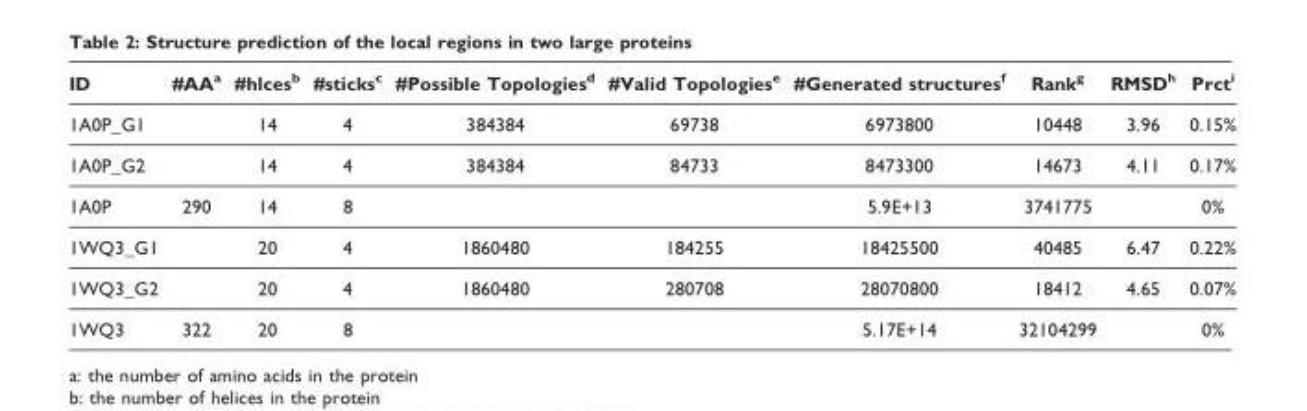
<table><thead><tr><td>ID</td><td>#AA<sup>a</sup></td><td>#hlces<sup>b</sup></td><td>#sticks<sup>c</sup></td><td>#Possible Topologies<sup>d</sup></td><td>#Valid Topologies<sup>e</sup></td><td>#Generated structures<sup>f</sup></td><td>Rank<sup>g</sup></td><td>RMSD<sup>h</sup></td><td>Prct<sup>i</sup></td></tr></thead><tbody><tr><td>1A0P_G1</td><td></td><td>14</td><td>4</td><td>384384</td><td>69738</td><td>6973800</td><td>10448</td><td>3.96</td><td>0.15%</td></tr><tr><td>1A0P_G2</td><td></td><td>14</td><td>4</td><td>384384</td><td>84733</td><td>8473300</td><td>14673</td><td>4.11</td><td>0.17%</td></tr><tr><td>1A0P</td><td>290</td><td>14</td><td>8</td><td></td><td></td><td>5.9E+13</td><td>3741775</td><td></td><td>0%</td></tr><tr><td>1WQ3_G1</td><td></td><td>20</td><td>4</td><td>1860480</td><td>184255</td><td>18425500</td><td>40485</td><td>6.47</td><td>0.22%</td></tr><tr><td>1WQ3_G2</td><td></td><td>20</td><td>4</td><td>1860480</td><td>280708</td><td>28070800</td><td>18412</td><td>4.65</td><td>0.07%</td></tr><tr><td>1WQ3</td><td>322</td><td>20</td><td>8</td><td></td><td></td><td>5.17E+14</td><td>32104299</td><td></td><td>0%</td></tr></tbody></table>